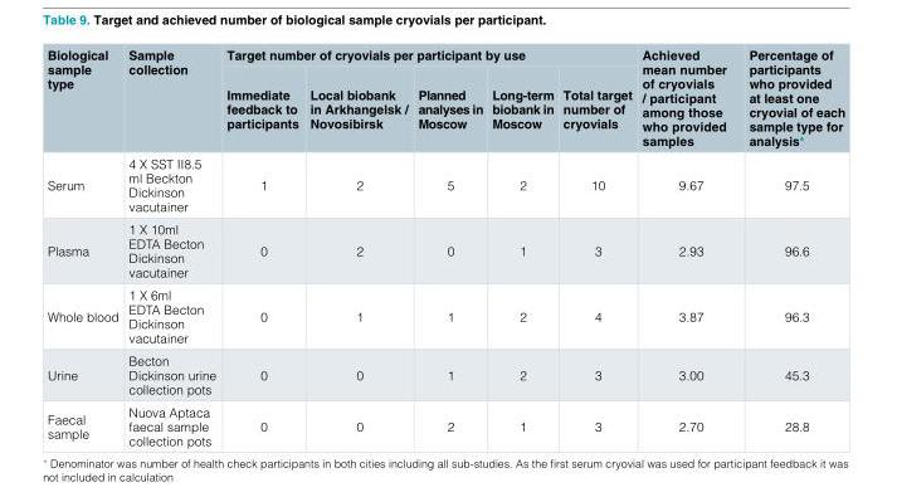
<table><thead><tr><td rowspan="2">Biological sample type</td><td rowspan="2">Sample collection</td><td colspan="5">Target number of cryovials per participant by use</td><td rowspan="2">Achieved mean number of cryovials / participant among those who provided samples</td><td rowspan="2">Percentage of participants who provided at least one cryovial of each sample type for analysis*</td></tr><tr><td>Immediate feedback to participants</td><td>Local biobank in Arkhangelsk / Novosibirsk</td><td>Planned analyses in Moscow</td><td>Long-term biobank in Moscow</td><td>Total target number of cryovials</td></tr></thead><tbody><tr><td>Serum</td><td>4 X SST II8.5 ml Beckton Dickinson vacutainer</td><td>1</td><td>2</td><td>5</td><td>2</td><td>10</td><td>9.67</td><td>97.5</td></tr><tr><td>Plasma</td><td>1 X 10ml EDTA Becton Dickinson vacutainer</td><td>0</td><td>2</td><td>0</td><td>1</td><td>3</td><td>2.93</td><td>96.6</td></tr><tr><td>Whole blood</td><td>1 X 6ml EDTA Becton Dickinson vacutainer</td><td>0</td><td>1</td><td>1</td><td>2</td><td>4</td><td>3.87</td><td>96.3</td></tr><tr><td>Urine</td><td>Becton Dickinson urine collection pots</td><td>0</td><td>0</td><td>1</td><td>2</td><td>3</td><td>3.00</td><td>45.3</td></tr><tr><td>Faecal sample</td><td>Nuova Aptaca faecal sample collection pots</td><td>0</td><td>0</td><td>2</td><td>1</td><td>3</td><td>2.70</td><td>28.8</td></tr></tbody></table>